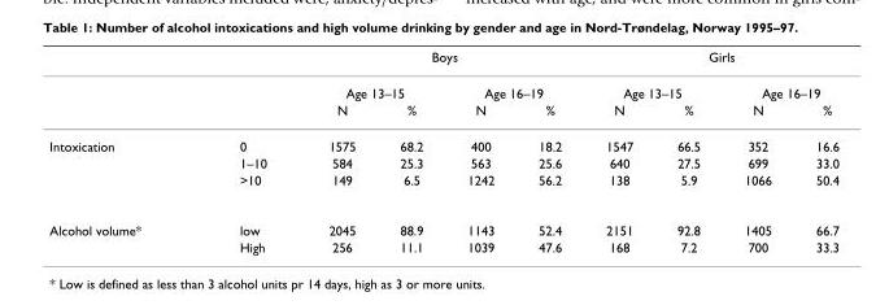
<table><thead><tr><td rowspan="3"></td><td rowspan="3"></td><td colspan="4">Boys</td><td colspan="4">Girls</td></tr><tr><td colspan="2">Age 13–15</td><td colspan="2">Age 16–19</td><td colspan="2">Age 13–15</td><td colspan="2">Age 16–19</td></tr><tr><td>N</td><td>%</td><td>N</td><td>%</td><td>N</td><td>%</td><td>N</td><td>%</td></tr></thead><tbody><tr><td rowspan="3">Intoxication</td><td>0</td><td>1575</td><td>68.2</td><td>400</td><td>18.2</td><td>1547</td><td>66.5</td><td>352</td><td>16.6</td></tr><tr><td>1–10</td><td>584</td><td>25.3</td><td>563</td><td>25.6</td><td>640</td><td>27.5</td><td>699</td><td>33.0</td></tr><tr><td>&gt;10</td><td>149</td><td>6.5</td><td>1242</td><td>56.2</td><td>138</td><td>5.9</td><td>1066</td><td>50.4</td></tr><tr><td rowspan="2">Alcohol volume*</td><td>low</td><td>2045</td><td>88.9</td><td>1143</td><td>52.4</td><td>2151</td><td>92.8</td><td>1405</td><td>66.7</td></tr><tr><td>High</td><td>256</td><td>11.1</td><td>1039</td><td>47.6</td><td>168</td><td>7.2</td><td>700</td><td>33.3</td></tr></tbody></table>